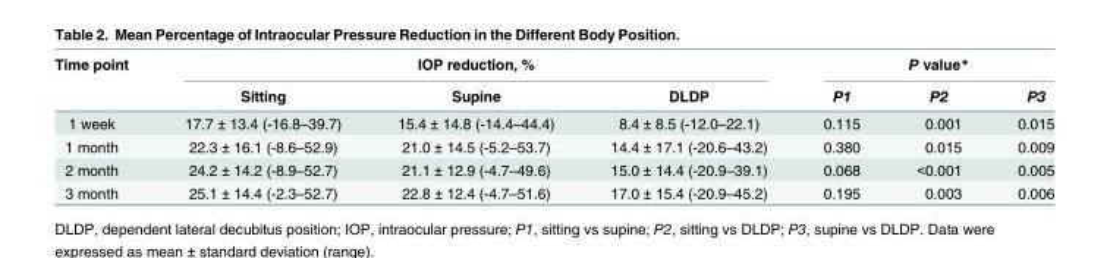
<table><thead><tr><td rowspan="2">Time point</td><td colspan="3">IOP reduction, %</td><td colspan="3">P value*</td></tr><tr><td>Sitting</td><td>Supine</td><td>DLDP</td><td>P1</td><td>P2</td><td>P3</td></tr></thead><tbody><tr><td>1 week</td><td>17.7 ± 13.4 (-16.8–39.7)</td><td>15.4 ± 14.8 (-14.4–44.4)</td><td>8.4 ± 8.5 (-12.0–22.1)</td><td>0.115</td><td>0.001</td><td>0.015</td></tr><tr><td>1 month</td><td>22.3 ± 16.1 (-8.6–52.9)</td><td>21.0 ± 14.5 (-5.2–53.7)</td><td>14.4 ± 17.1 (-20.6–43.2)</td><td>0.380</td><td>0.015</td><td>0.009</td></tr><tr><td>2 month</td><td>24.2 ± 14.2 (-8.9–52.7)</td><td>21.1 ± 12.9 (-4.7–49.6)</td><td>15.0 ± 14.4 (-20.9–39.1)</td><td>0.068</td><td>&lt;0.001</td><td>0.005</td></tr><tr><td>3 month</td><td>25.1 ± 14.4 (-2.3–52.7)</td><td>22.8 ± 12.4 (-4.7–51.6)</td><td>17.0 ± 15.4 (-20.9–45.2)</td><td>0.195</td><td>0.003</td><td>0.006</td></tr></tbody></table>